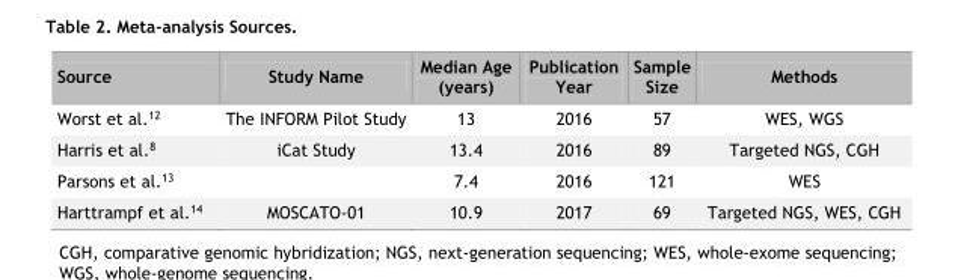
<table><thead><tr><td>Source</td><td>Study Name</td><td>Median Age (years)</td><td>Publication Year</td><td>Sample Size</td><td>Methods</td></tr></thead><tbody><tr><td>Worst et al.<sup>12</sup></td><td>The INFORM Pilot Study</td><td>13</td><td>2016</td><td>57</td><td>WES, WGS</td></tr><tr><td>Harris et al.<sup>8</sup></td><td>iCat Study</td><td>13.4</td><td>2016</td><td>89</td><td>Targeted NGS, CGH</td></tr><tr><td>Parsons et al.<sup>13</sup></td><td></td><td>7.4</td><td>2016</td><td>121</td><td>WES</td></tr><tr><td>Harttrampf et al.<sup>14</sup></td><td>MOSCATO-01</td><td>10.9</td><td>2017</td><td>69</td><td>Targeted NGS, WES, CGH</td></tr></tbody></table>